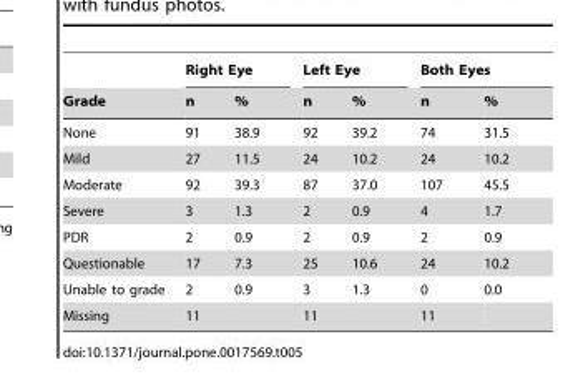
<table><thead><tr><td rowspan="2">Grade</td><td colspan="2">Right Eye</td><td colspan="2">Left Eye</td><td colspan="2">Both Eyes</td></tr><tr><td>n</td><td>%</td><td>n</td><td>%</td><td>n</td><td>%</td></tr></thead><tbody><tr><td>None</td><td>91</td><td>38.9</td><td>92</td><td>39.2</td><td>74</td><td>31.5</td></tr><tr><td>Mild</td><td>27</td><td>11.5</td><td>24</td><td>10.2</td><td>24</td><td>10.2</td></tr><tr><td>Moderate</td><td>92</td><td>39.3</td><td>87</td><td>37.0</td><td>107</td><td>45.5</td></tr><tr><td>Severe</td><td>3</td><td>1.3</td><td>2</td><td>0.9</td><td>4</td><td>1.7</td></tr><tr><td>PDR</td><td>2</td><td>0.9</td><td>2</td><td>0.9</td><td>2</td><td>0.9</td></tr><tr><td>Questionable</td><td>17</td><td>7.3</td><td>25</td><td>10.6</td><td>24</td><td>10.2</td></tr><tr><td>Unable to grade</td><td>2</td><td>0.9</td><td>3</td><td>1.3</td><td>0</td><td>0.0</td></tr><tr><td>Missing</td><td>11</td><td></td><td>11</td><td></td><td>11</td><td></td></tr></tbody></table>